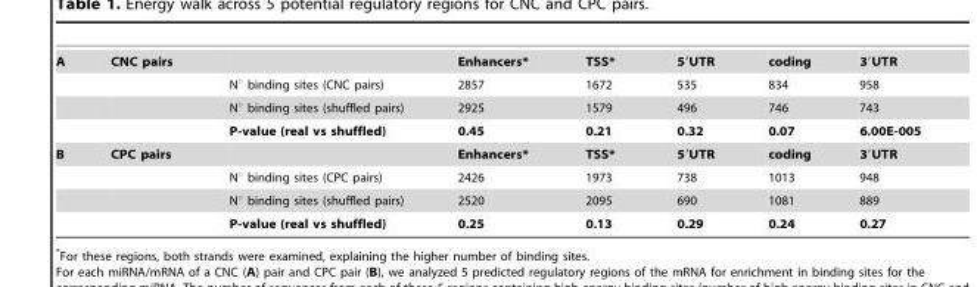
<table><tbody><tr><td rowspan="4">A</td><td>CNC pairs</td><td></td><td>Enhancers*</td><td>TSS*</td><td>5′UTR</td><td>coding</td><td>3′UTR</td></tr><tr><td></td><td>N° binding sites (CNC pairs)</td><td>2857</td><td>1672</td><td>535</td><td>834</td><td>958</td></tr><tr><td></td><td>N° binding sites (shuffled pairs)</td><td>2925</td><td>1579</td><td>496</td><td>746</td><td>743</td></tr><tr><td></td><td>P-value (real vs shuffled)</td><td>0.45</td><td>0.21</td><td>0.32</td><td>0.07</td><td>6.00E-005</td></tr><tr><td rowspan="4">B</td><td>CPC pairs</td><td></td><td>Enhancers*</td><td>TSS*</td><td>5′UTR</td><td>coding</td><td>3′UTR</td></tr><tr><td></td><td>N° binding sites (CPC pairs)</td><td>2426</td><td>1973</td><td>738</td><td>1013</td><td>948</td></tr><tr><td></td><td>N° binding sites (shuffled pairs)</td><td>2520</td><td>2095</td><td>690</td><td>1081</td><td>889</td></tr><tr><td></td><td>P-value (real vs shuffled)</td><td>0.25</td><td>0.13</td><td>0.29</td><td>0.24</td><td>0.27</td></tr></tbody></table>